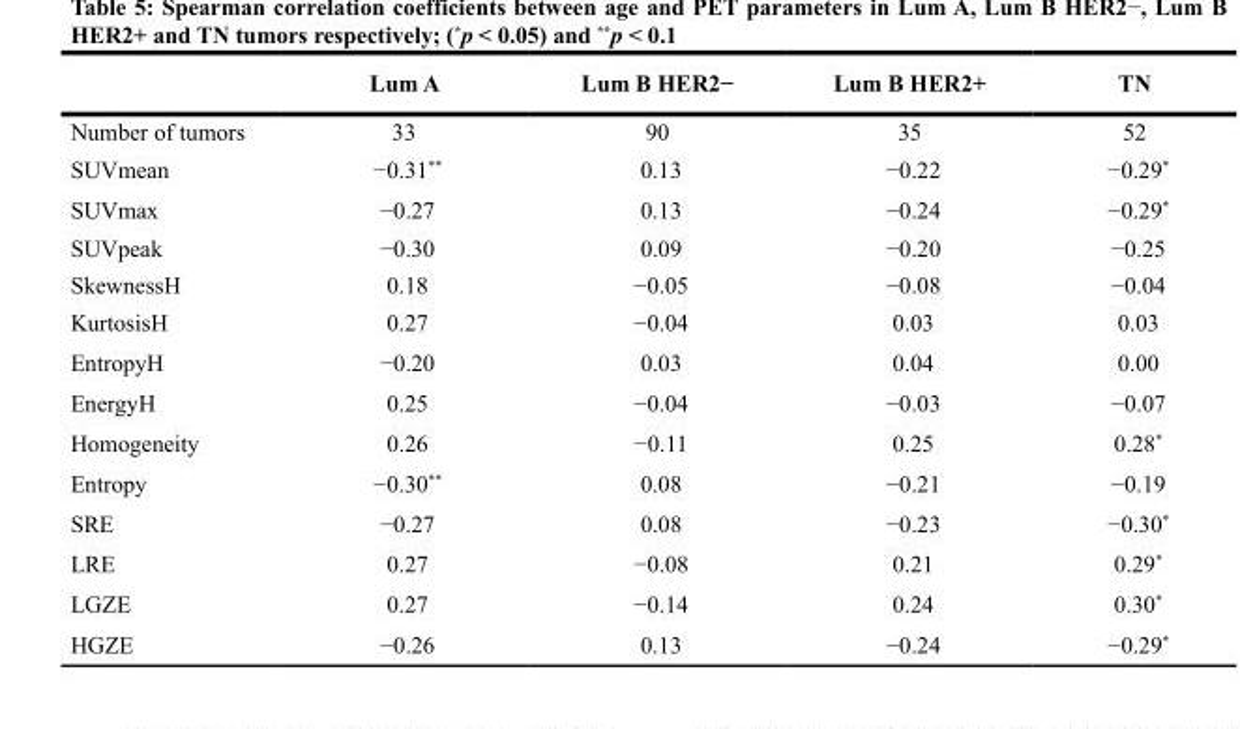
<table><thead><tr><td></td><td>Lum A</td><td>Lum B HER2−</td><td>Lum B HER2+</td><td>TN</td></tr></thead><tbody><tr><td>Number of tumors</td><td>33</td><td>90</td><td>35</td><td>52</td></tr><tr><td>SUVmean</td><td>−0.31**</td><td>0.13</td><td>−0.22</td><td>−0.29*</td></tr><tr><td>SUVmax</td><td>−0.27</td><td>0.13</td><td>−0.24</td><td>−0.29*</td></tr><tr><td>SUVpeak</td><td>−0.30</td><td>0.09</td><td>−0.20</td><td>−0.25</td></tr><tr><td>SkewnessH</td><td>0.18</td><td>−0.05</td><td>−0.08</td><td>−0.04</td></tr><tr><td>KurtosisH</td><td>0.27</td><td>−0.04</td><td>0.03</td><td>0.03</td></tr><tr><td>EntropyH</td><td>−0.20</td><td>0.03</td><td>0.04</td><td>0.00</td></tr><tr><td>EnergyH</td><td>0.25</td><td>−0.04</td><td>−0.03</td><td>−0.07</td></tr><tr><td>Homogeneity</td><td>0.26</td><td>−0.11</td><td>0.25</td><td>0.28*</td></tr><tr><td>Entropy</td><td>−0.30**</td><td>0.08</td><td>−0.21</td><td>−0.19</td></tr><tr><td>SRE</td><td>−0.27</td><td>0.08</td><td>−0.23</td><td>−0.30*</td></tr><tr><td>LRE</td><td>0.27</td><td>−0.08</td><td>0.21</td><td>0.29*</td></tr><tr><td>LGZE</td><td>0.27</td><td>−0.14</td><td>0.24</td><td>0.30*</td></tr><tr><td>HGZE</td><td>−0.26</td><td>0.13</td><td>−0.24</td><td>−0.29*</td></tr></tbody></table>